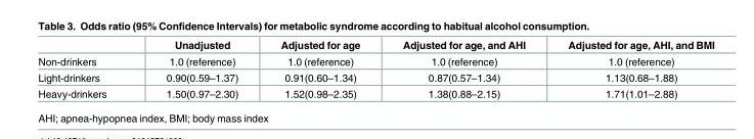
<table><thead><tr><td></td><td>Unadjusted</td><td>Adjusted for age</td><td>Adjusted for age, and AHI</td><td>Adjusted for age, AHI, and BMI</td></tr></thead><tbody><tr><td>Non-drinkers</td><td>1.0 (reference)</td><td>1.0 (reference)</td><td>1.0 (reference)</td><td>1.0 (reference)</td></tr><tr><td>Light-drinkers</td><td>0.90(0.59–1.37)</td><td>0.91(0.60–1.34)</td><td>0.87(0.57–1.34)</td><td>1.13(0.68–1.88)</td></tr><tr><td>Heavy-drinkers</td><td>1.50(0.97–2.30)</td><td>1.52(0.98–2.35)</td><td>1.38(0.88–2.15)</td><td>1.71(1.01–2.88)</td></tr></tbody></table>